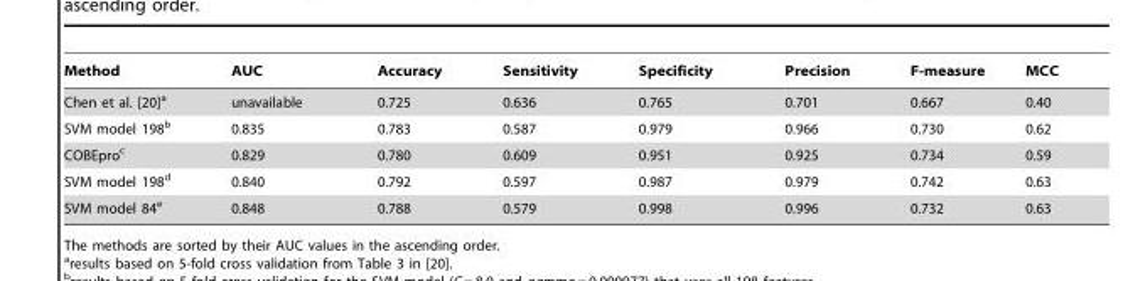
<table><thead><tr><td>Method</td><td>AUC</td><td>Accuracy</td><td>Sensitivity</td><td>Specificity</td><td>Precision</td><td>F-measure</td><td>MCC</td></tr></thead><tbody><tr><td>Chen et al. [20]a</td><td>unavailable</td><td>0.725</td><td>0.636</td><td>0.765</td><td>0.701</td><td>0.667</td><td>0.40</td></tr><tr><td>SVM model 198<sup>b</sup></td><td>0.835</td><td>0.783</td><td>0.587</td><td>0.979</td><td>0.966</td><td>0.730</td><td>0.62</td></tr><tr><td>COBEpro<sup>c</sup></td><td>0.829</td><td>0.780</td><td>0.609</td><td>0.951</td><td>0.925</td><td>0.734</td><td>0.59</td></tr><tr><td>SVM model 198<sup>d</sup></td><td>0.840</td><td>0.792</td><td>0.597</td><td>0.987</td><td>0.979</td><td>0.742</td><td>0.63</td></tr><tr><td>SVM model 84<sup>e</sup></td><td>0.848</td><td>0.788</td><td>0.579</td><td>0.998</td><td>0.996</td><td>0.732</td><td>0.63</td></tr></tbody></table>